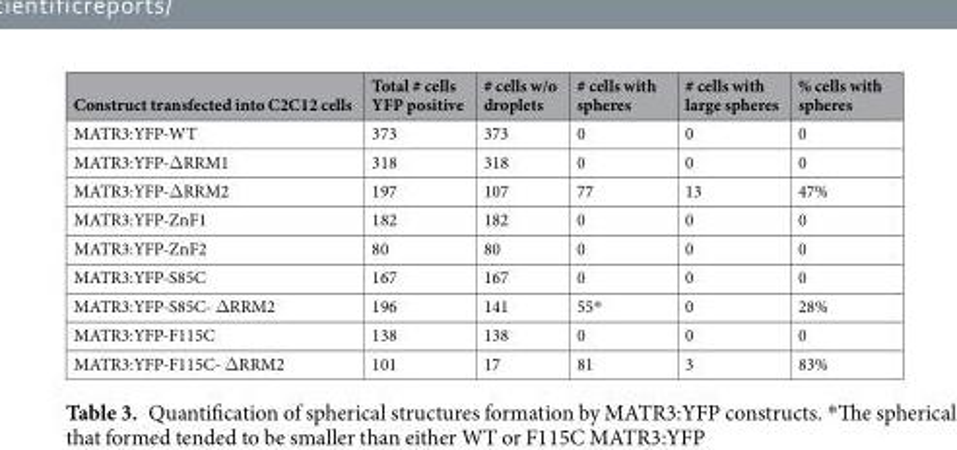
<table><thead><tr><td>Construct transfected into C2C12 cells</td><td>Total # cells YFP positive</td><td># cells w/o droplets</td><td># cells with spheres</td><td># cells with large spheres</td><td>% cells with spheres</td></tr></thead><tbody><tr><td>MATR3:YFP-WT</td><td>373</td><td>373</td><td>0</td><td>0</td><td>0</td></tr><tr><td>MATR3:YFP-ΔRRM1</td><td>318</td><td>318</td><td>0</td><td>0</td><td>0</td></tr><tr><td>MATR3:YFP-ΔRRM2</td><td>197</td><td>107</td><td>77</td><td>13</td><td>47%</td></tr><tr><td>MATR3:YFP-ZnF1</td><td>182</td><td>182</td><td>0</td><td>0</td><td>0</td></tr><tr><td>MATR3:YFP-ZnF2</td><td>80</td><td>80</td><td>0</td><td>0</td><td>0</td></tr><tr><td>MATR3:YFP-S85C</td><td>167</td><td>167</td><td>0</td><td>0</td><td>0</td></tr><tr><td>MATR3:YFP-S85C- ΔRRM2</td><td>196</td><td>141</td><td>55*</td><td>0</td><td>28%</td></tr><tr><td>MATR3:YFP-F115C</td><td>138</td><td>138</td><td>0</td><td>0</td><td>0</td></tr><tr><td>MATR3:YFP-F115C- ΔRRM2</td><td>101</td><td>17</td><td>81</td><td>3</td><td>83%</td></tr></tbody></table>